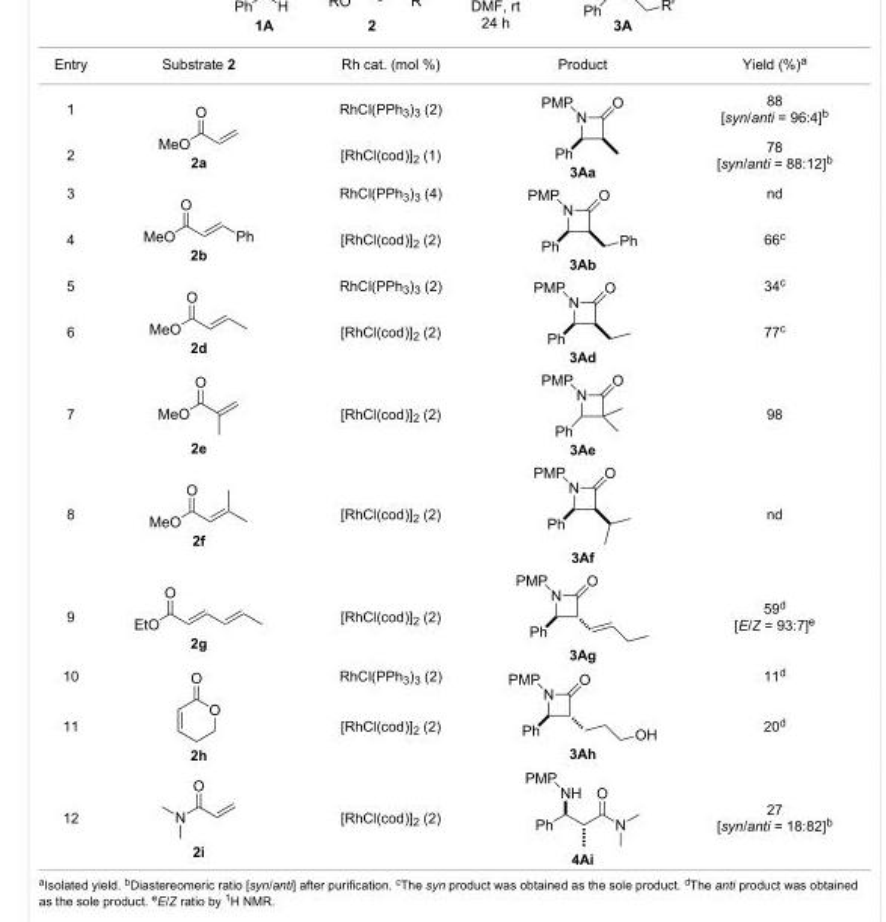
<table><tbody><tr><td>Entry</td><td>Substrate 2</td><td>Rh cat. (mol %)</td><td>Product</td><td>Yield (%)<sup>a</sup></td></tr><tr><td>1</td><td rowspan="2">2a</td><td>RhCl(PPh<sub>3</sub>)<sub>3</sub> (2)</td><td rowspan="2">3Aa</td><td>88 [syn/anti = 96:4]<sup>b</sup></td></tr><tr><td>2</td><td>[RhCl(cod)]<sub>2</sub> (1)</td><td>78 [syn/anti = 88:12]<sup>b</sup></td></tr><tr><td>3</td><td rowspan="2">2b</td><td>RhCl(PPh<sub>3</sub>)<sub>3</sub> (4)</td><td rowspan="2">3Ab</td><td>nd</td></tr><tr><td>4</td><td>[RhCl(cod)]<sub>2</sub> (2)</td><td>66<sup>c</sup></td></tr><tr><td>5</td><td rowspan="2">2d</td><td>RhCl(PPh<sub>3</sub>)<sub>3</sub> (2)</td><td rowspan="2">3Ad</td><td>34<sup>c</sup></td></tr><tr><td>6</td><td>[RhCl(cod)]<sub>2</sub> (2)</td><td>77<sup>c</sup></td></tr><tr><td>7</td><td>2e</td><td>[RhCl(cod)]<sub>2</sub> (2)</td><td>3Ae</td><td>98</td></tr><tr><td>8</td><td>2f</td><td>[RhCl(cod)]<sub>2</sub> (2)</td><td>3Af</td><td>nd</td></tr><tr><td>9</td><td>2g</td><td>[RhCl(cod)]<sub>2</sub> (2)</td><td>3Ag</td><td>59<sup>d</sup> [E/Z = 93:7]<sup>e</sup></td></tr><tr><td>10</td><td rowspan="2">2h</td><td>RhCl(PPh<sub>3</sub>)<sub>3</sub> (2)</td><td rowspan="2">3Ah</td><td>11<sup>d</sup></td></tr><tr><td>11</td><td>[RhCl(cod)]<sub>2</sub> (2)</td><td>20<sup>d</sup></td></tr><tr><td>12</td><td>2i</td><td>[RhCl(cod)]<sub>2</sub> (2)</td><td>4Ai</td><td>27 [syn/anti = 18:82]<sup>b</sup></td></tr></tbody></table>